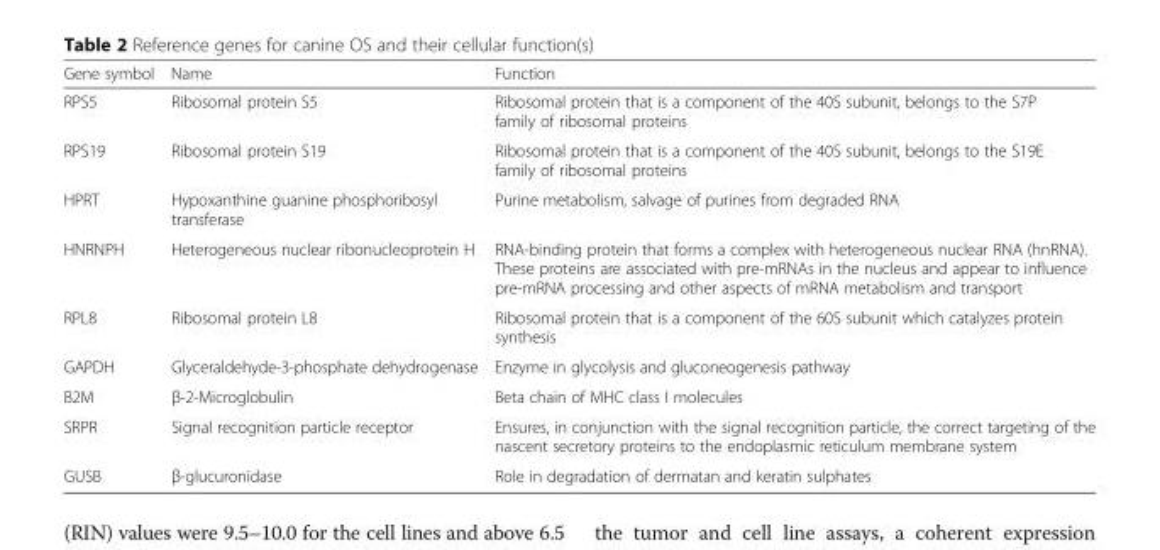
<table><thead><tr><td>Gene symbol</td><td>Name</td><td>Function</td></tr></thead><tbody><tr><td>RPS5</td><td>Ribosomal protein S5</td><td>Ribosomal protein that is a component of the 40S subunit, belongs to the S7P family of ribosomal proteins</td></tr><tr><td>RPS19</td><td>Ribosomal protein S19</td><td>Ribosomal protein that is a component of the 40S subunit, belongs to the S19E family of ribosomal proteins</td></tr><tr><td>HPRT</td><td>Hypoxanthine guanine phosphoribosyl transferase</td><td>Purine metabolism, salvage of purines from degraded RNA</td></tr><tr><td>HNRNPH</td><td>Heterogeneous nuclear ribonucleoprotein H</td><td>RNA-binding protein that forms a complex with heterogeneous nuclear RNA (hnRNA). These proteins are associated with pre-mRNAs in the nucleus and appear to influence pre-mRNA processing and other aspects of mRNA metabolism and transport</td></tr><tr><td>RPL8</td><td>Ribosomal protein L8</td><td>Ribosomal protein that is a component of the 60S subunit which catalyzes protein synthesis</td></tr><tr><td>GAPDH</td><td>Glyceraldehyde-3-phosphate dehydrogenase</td><td>Enzyme in glycolysis and gluconeogenesis pathway</td></tr><tr><td>B2M</td><td>β-2-Microglobulin</td><td>Beta chain of MHC class I molecules</td></tr><tr><td>SRPR</td><td>Signal recognition particle receptor</td><td>Ensures, in conjunction with the signal recognition particle, the correct targeting of the nascent secretory proteins to the endoplasmic reticulum membrane system</td></tr><tr><td>GUSB</td><td>β-glucuronidase</td><td>Role in degradation of dermatan and keratin sulphates</td></tr></tbody></table>